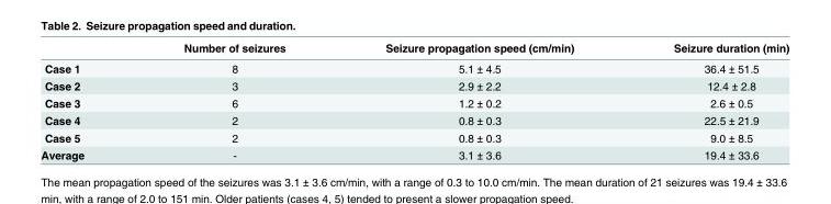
<table><thead><tr><td></td><td>Number of seizures</td><td>Seizure propagation speed (cm/min)</td><td>Seizure duration (min)</td></tr></thead><tbody><tr><td>Case 1</td><td>8</td><td>5.1 ± 4.5</td><td>36.4 ± 51.5</td></tr><tr><td>Case 2</td><td>3</td><td>2.9 ± 2.2</td><td>12.4 ± 2.8</td></tr><tr><td>Case 3</td><td>6</td><td>1.2 ± 0.2</td><td>2.6 ± 0.5</td></tr><tr><td>Case 4</td><td>2</td><td>0.8 ± 0.3</td><td>22.5 ± 21.9</td></tr><tr><td>Case 5</td><td>2</td><td>0.8 ± 0.3</td><td>9.0 ± 8.5</td></tr><tr><td>Average</td><td>-</td><td>3.1 ± 3.6</td><td>19.4 ± 33.6</td></tr></tbody></table>